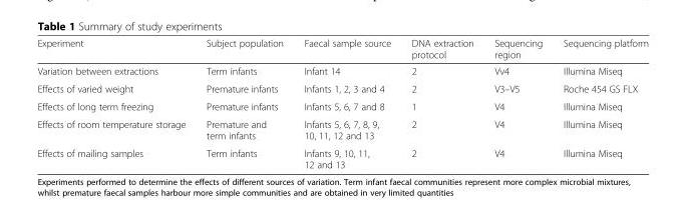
<table><thead><tr><td>Experiment</td><td>Subject population</td><td>Faecal sample source</td><td>DNA extraction protocol</td><td>Sequencing region</td><td>Sequencing platform</td></tr></thead><tbody><tr><td>Variation between extractions</td><td>Term infants</td><td>Infant 14</td><td>2</td><td>Vv4</td><td>Illumina Miseq</td></tr><tr><td>Effects of varied weight</td><td>Premature infants</td><td>Infants 1, 2, 3 and 4</td><td>2</td><td>V3–V5</td><td>Roche 454 GS FLX</td></tr><tr><td>Effects of long term freezing</td><td>Premature infants</td><td>Infants 5, 6, 7 and 8</td><td>1</td><td>V4</td><td>Illumina Miseq</td></tr><tr><td>Effects of room temperature storage</td><td>Premature and term infants</td><td>Infants 5, 6, 7, 8, 9, 10, 11, 12 and 13</td><td>2</td><td>V4</td><td>Illumina Miseq</td></tr><tr><td>Effects of mailing samples</td><td>Term infants</td><td>Infants 9, 10, 11, 12 and 13</td><td>2</td><td>V4</td><td>Illumina Miseq</td></tr></tbody></table>